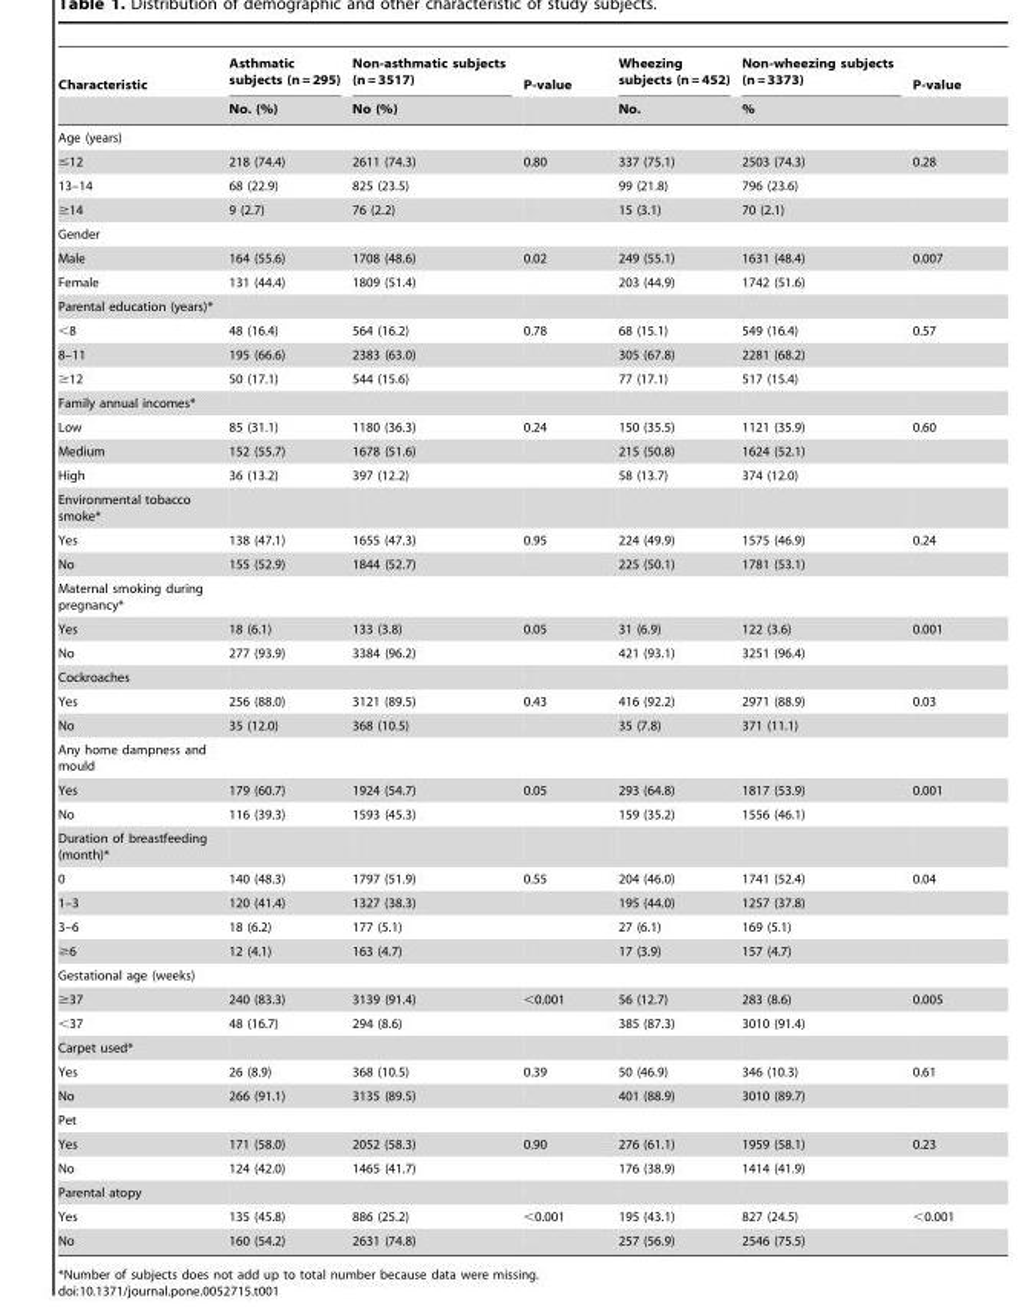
<table><thead><tr><td rowspan="2">Characteristic</td><td rowspan="2">Asthmatic subjects (n = 295) No. (%)</td><td rowspan="2">Non-asthmatic subjects (n = 3517) No (%)</td><td rowspan="2">P-value</td><td rowspan="2">Wheezing subjects (n = 452) No.</td><td rowspan="2">Non-wheezing subjects (n = 3373) %</td><td rowspan="2">P-value</td></tr><tr></tr></thead><tbody><tr><td colspan="7">Age (years)</td></tr><tr><td>≤12</td><td>218 (74.4)</td><td>2611 (74.3)</td><td>0.80</td><td>337 (75.1)</td><td>2503 (74.3)</td><td>0.28</td></tr><tr><td>13–14</td><td>68 (22.9)</td><td>825 (23.5)</td><td></td><td>99 (21.8)</td><td>796 (23.6)</td><td></td></tr><tr><td>≥14</td><td>9 (2.7)</td><td>76 (2.2)</td><td></td><td>15 (3.1)</td><td>70 (2.1)</td><td></td></tr><tr><td colspan="7">Gender</td></tr><tr><td>Male</td><td>164 (55.6)</td><td>1708 (48.6)</td><td>0.02</td><td>249 (55.1)</td><td>1631 (48.4)</td><td>0.007</td></tr><tr><td>Female</td><td>131 (44.4)</td><td>1809 (51.4)</td><td></td><td>203 (44.9)</td><td>1742 (51.6)</td><td></td></tr><tr><td colspan="7">Parental education (years)*</td></tr><tr><td>&lt;8</td><td>48 (16.4)</td><td>564 (16.2)</td><td>0.78</td><td>68 (15.1)</td><td>549 (16.4)</td><td>0.57</td></tr><tr><td>8–11</td><td>195 (66.6)</td><td>2383 (63.0)</td><td></td><td>305 (67.8)</td><td>2281 (68.2)</td><td></td></tr><tr><td>≥12</td><td>50 (17.1)</td><td>544 (15.6)</td><td></td><td>77 (17.1)</td><td>517 (15.4)</td><td></td></tr><tr><td colspan="7">Family annual incomes*</td></tr><tr><td>Low</td><td>85 (31.1)</td><td>1180 (36.3)</td><td>0.24</td><td>150 (35.5)</td><td>1121 (35.9)</td><td>0.60</td></tr><tr><td>Medium</td><td>152 (55.7)</td><td>1678 (51.6)</td><td></td><td>215 (50.8)</td><td>1624 (52.1)</td><td></td></tr><tr><td>High</td><td>36 (13.2)</td><td>397 (12.2)</td><td></td><td>58 (13.7)</td><td>374 (12.0)</td><td></td></tr><tr><td colspan="7">Environmental tobacco smoke*</td></tr><tr><td>Yes</td><td>138 (47.1)</td><td>1655 (47.3)</td><td>0.95</td><td>224 (49.9)</td><td>1575 (46.9)</td><td>0.24</td></tr><tr><td>No</td><td>155 (52.9)</td><td>1844 (52.7)</td><td></td><td>225 (50.1)</td><td>1781 (53.1)</td><td></td></tr><tr><td colspan="7">Maternal smoking during pregnancy*</td></tr><tr><td>Yes</td><td>18 (6.1)</td><td>133 (3.8)</td><td>0.05</td><td>31 (6.9)</td><td>122 (3.6)</td><td>0.001</td></tr><tr><td>No</td><td>277 (93.9)</td><td>3384 (96.2)</td><td></td><td>421 (93.1)</td><td>3251 (96.4)</td><td></td></tr><tr><td colspan="7">Cockroaches</td></tr><tr><td>Yes</td><td>256 (88.0)</td><td>3121 (89.5)</td><td>0.43</td><td>416 (92.2)</td><td>2971 (88.9)</td><td>0.03</td></tr><tr><td>No</td><td>35 (12.0)</td><td>368 (10.5)</td><td></td><td>35 (7.8)</td><td>371 (11.1)</td><td></td></tr><tr><td colspan="7">Any home dampness and mould</td></tr><tr><td>Yes</td><td>179 (60.7)</td><td>1924 (54.7)</td><td>0.05</td><td>293 (64.8)</td><td>1817 (53.9)</td><td>0.001</td></tr><tr><td>No</td><td>116 (39.3)</td><td>1593 (45.3)</td><td></td><td>159 (35.2)</td><td>1556 (46.1)</td><td></td></tr><tr><td colspan="7">Duration of breastfeeding (month)*</td></tr><tr><td>0</td><td>140 (48.3)</td><td>1797 (51.9)</td><td>0.55</td><td>204 (46.0)</td><td>1741 (52.4)</td><td>0.04</td></tr><tr><td>1–3</td><td>120 (41.4)</td><td>1327 (38.3)</td><td></td><td>195 (44.0)</td><td>1257 (37.8)</td><td></td></tr><tr><td>3–6</td><td>18 (6.2)</td><td>177 (5.1)</td><td></td><td>27 (6.1)</td><td>169 (5.1)</td><td></td></tr><tr><td>≥6</td><td>12 (4.1)</td><td>163 (4.7)</td><td></td><td>17 (3.9)</td><td>157 (4.7)</td><td></td></tr><tr><td colspan="7">Gestational age (weeks)</td></tr><tr><td>≥37</td><td>240 (83.3)</td><td>3139 (91.4)</td><td>&lt;0.001</td><td>56 (12.7)</td><td>283 (8.6)</td><td>0.005</td></tr><tr><td>&lt;37</td><td>48 (16.7)</td><td>294 (8.6)</td><td></td><td>385 (87.3)</td><td>3010 (91.4)</td><td></td></tr><tr><td colspan="7">Carpet used*</td></tr><tr><td>Yes</td><td>26 (8.9)</td><td>368 (10.5)</td><td>0.39</td><td>50 (46.9)</td><td>346 (10.3)</td><td>0.61</td></tr><tr><td>No</td><td>266 (91.1)</td><td>3135 (89.5)</td><td></td><td>401 (88.9)</td><td>3010 (89.7)</td><td></td></tr><tr><td colspan="7">Pet</td></tr><tr><td>Yes</td><td>171 (58.0)</td><td>2052 (58.3)</td><td>0.90</td><td>276 (61.1)</td><td>1959 (58.1)</td><td>0.23</td></tr><tr><td>No</td><td>124 (42.0)</td><td>1465 (41.7)</td><td></td><td>176 (38.9)</td><td>1414 (41.9)</td><td></td></tr><tr><td colspan="7">Parental atopy</td></tr><tr><td>Yes</td><td>135 (45.8)</td><td>886 (25.2)</td><td>&lt;0.001</td><td>195 (43.1)</td><td>827 (24.5)</td><td>&lt;0.001</td></tr><tr><td>No</td><td>160 (54.2)</td><td>2631 (74.8)</td><td></td><td>257 (56.9)</td><td>2546 (75.5)</td><td></td></tr></tbody></table>